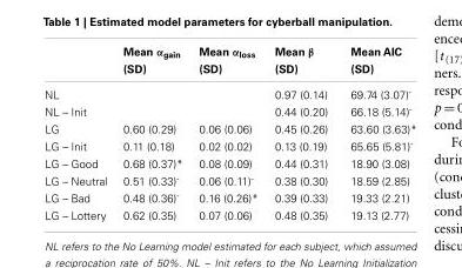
<table><thead><tr><td></td><td>Mean α<sub>gain</sub> (SD)</td><td>Mean α<sub>loss</sub> (SD)</td><td>Mean β (SD)</td><td>Mean AIC (SD)</td></tr></thead><tbody><tr><td>NL</td><td></td><td></td><td>0.97 (0.14)</td><td>69.74 (3.07)<sup>-</sup></td></tr><tr><td>NL – Init</td><td></td><td></td><td>0.44 (0.20)</td><td>66.18 (5.14)<sup>-</sup></td></tr><tr><td>LG</td><td>0.60 (0.29)</td><td>0.06 (0.06)</td><td>0.45 (0.26)</td><td>63.60 (3.63)*</td></tr><tr><td>LG – Init</td><td>0.11 (0.18)</td><td>0.02 (0.02)</td><td>0.13 (0.19)</td><td>65.65 (5.81)<sup>-</sup></td></tr><tr><td>LG – Good</td><td>0.68 (0.37)*</td><td>0.08 (0.09)</td><td>0.44 (0.31)</td><td>18.90 (3.08)</td></tr><tr><td>LG – Neutral</td><td>0.51 (0.33)<sup>-</sup></td><td>0.06 (0.11)<sup>-</sup></td><td>0.38 (0.30)</td><td>18.59 (2.85)</td></tr><tr><td>LG – Bad</td><td>0.48 (0.36)<sup>-</sup></td><td>0.16 (0.26)*</td><td>0.39 (0.33)</td><td>19.33 (2.21)</td></tr><tr><td>LG – Lottery</td><td>0.62 (0.35)</td><td>0.07 (0.06)</td><td>0.48 (0.35)</td><td>19.13 (2.77)</td></tr></tbody></table>